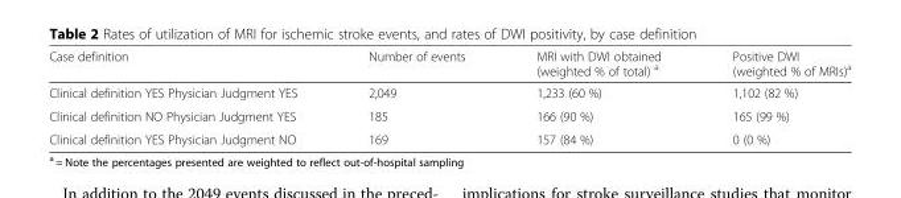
<table><thead><tr><td>Case definition</td><td>Number of events</td><td>MRI with DWI obtained (weighted % of total) <sup>a</sup></td><td>Positive DWI (weighted % of MRIs)<sup>a</sup></td></tr></thead><tbody><tr><td>Clinical definition YES Physician Judgment YES</td><td>2,049</td><td>1,233 (60 %)</td><td>1,102 (82 %)</td></tr><tr><td>Clinical definition NO Physician Judgment YES</td><td>185</td><td>166 (90 %)</td><td>165 (99 %)</td></tr><tr><td>Clinical definition YES Physician Judgment NO</td><td>169</td><td>157 (84 %)</td><td>0 (0 %)</td></tr></tbody></table>